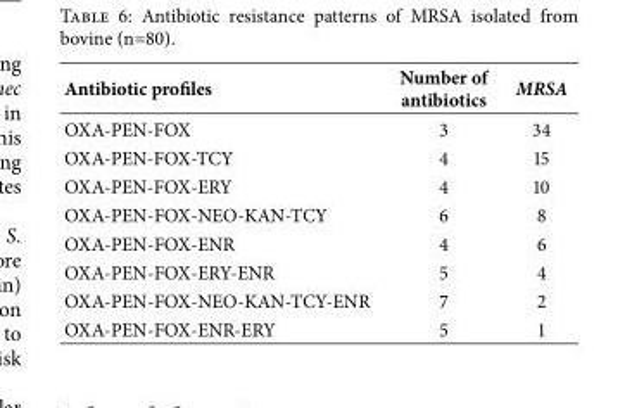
<table><thead><tr><td>Antibiotic profiles</td><td>Number of antibiotics</td><td>MRSA</td></tr></thead><tbody><tr><td>OXA-PEN-FOX</td><td>3</td><td>34</td></tr><tr><td>OXA-PEN-FOX-TCY</td><td>4</td><td>15</td></tr><tr><td>OXA-PEN-FOX-ERY</td><td>4</td><td>10</td></tr><tr><td>OXA-PEN-FOX-NEO-KAN-TCY</td><td>6</td><td>8</td></tr><tr><td>OXA-PEN-FOX-ENR</td><td>4</td><td>6</td></tr><tr><td>OXA-PEN-FOX-ERY-ENR</td><td>5</td><td>4</td></tr><tr><td>OXA-PEN-FOX-NEO-KAN-TCY-ENR</td><td>7</td><td>2</td></tr><tr><td>OXA-PEN-FOX-ENR-ERY</td><td>5</td><td>1</td></tr></tbody></table>